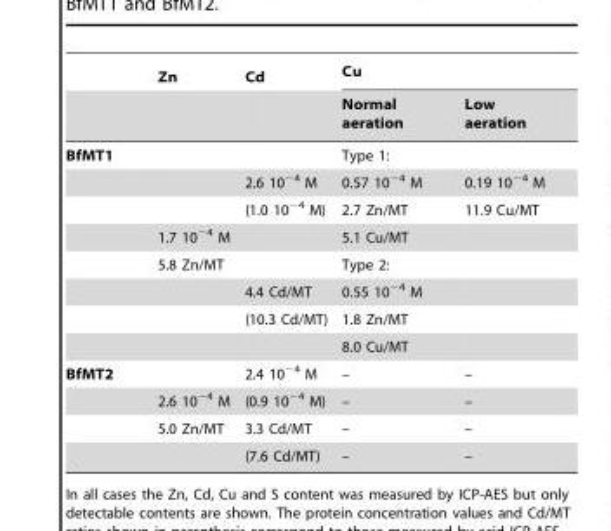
<table><thead><tr><td rowspan="2"></td><td rowspan="2">Zn</td><td rowspan="2">Cd</td><td colspan="2">Cu</td></tr><tr><td>Normal aeration</td><td>Low aeration</td></tr></thead><tbody><tr><td rowspan="8">BfMT1</td><td></td><td></td><td>Type 1:</td><td></td></tr><tr><td></td><td>2.6 10<sup>−4</sup> M</td><td>0.57 10<sup>−4</sup> M</td><td>0.19 10<sup>−4</sup> M</td></tr><tr><td></td><td>(1.0 10<sup>−4</sup> M)</td><td>2.7 Zn/MT</td><td>11.9 Cu/MT</td></tr><tr><td>1.7 10<sup>−4</sup> M</td><td></td><td>5.1 Cu/MT</td><td></td></tr><tr><td>5.8 Zn/MT</td><td></td><td>Type 2:</td><td></td></tr><tr><td></td><td>4.4 Cd/MT</td><td>0.55 10<sup>−4</sup> M</td><td></td></tr><tr><td></td><td>(10.3 Cd/MT)</td><td>1.8 Zn/MT</td><td></td></tr><tr><td></td><td></td><td>8.0 Cu/MT</td><td></td></tr><tr><td rowspan="4">BfMT2</td><td></td><td>2.4 10<sup>−4</sup> M</td><td>–</td><td>–</td></tr><tr><td>2.6 10<sup>−4</sup> M</td><td>(0.9 10<sup>−4</sup> M)</td><td>–</td><td>–</td></tr><tr><td>5.0 Zn/MT</td><td>3.3 Cd/MT</td><td>–</td><td>–</td></tr><tr><td></td><td>(7.6 Cd/MT)</td><td>–</td><td>–</td></tr></tbody></table>